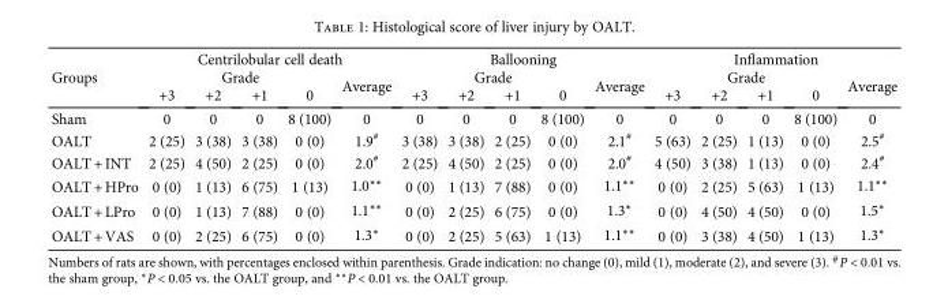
<table><thead><tr><td rowspan="3">Groups</td><td colspan="5">Centrilobular cell death</td><td colspan="5">Ballooning</td><td colspan="5">Inflammation</td></tr><tr><td colspan="4">Grade</td><td rowspan="2">Average</td><td colspan="4">Grade</td><td rowspan="2">Average</td><td colspan="4">Grade</td><td rowspan="2">Average</td></tr><tr><td>+3</td><td>+2</td><td>+1</td><td>0</td><td>+3</td><td>+2</td><td>+1</td><td>0</td><td>+3</td><td>+2</td><td>+1</td><td>0</td></tr></thead><tbody><tr><td>Sham</td><td>0</td><td>0</td><td>0</td><td>8 (100)</td><td>0</td><td>0</td><td>0</td><td>0</td><td>8 (100)</td><td>0</td><td>0</td><td>0</td><td>0</td><td>8 (100)</td><td>0</td></tr><tr><td>OALT</td><td>2 (25)</td><td>3 (38)</td><td>3 (38)</td><td>0 (0)</td><td>1.9<sup>#</sup></td><td>3 (38)</td><td>3 (38)</td><td>2 (25)</td><td>0 (0)</td><td>2.1<sup>#</sup></td><td>5 (63)</td><td>2 (25)</td><td>1 (13)</td><td>0 (0)</td><td>2.5<sup>#</sup></td></tr><tr><td>OALT + INT</td><td>2 (25)</td><td>4 (50)</td><td>2 (25)</td><td>0 (0)</td><td>2.0<sup>#</sup></td><td>2 (25)</td><td>4 (50)</td><td>2 (25)</td><td>0 (0)</td><td>2.0<sup>#</sup></td><td>4 (50)</td><td>3 (38)</td><td>1 (13)</td><td>0 (0)</td><td>2.4<sup>#</sup></td></tr><tr><td>OALT + HPro</td><td>0 (0)</td><td>1 (13)</td><td>6 (75)</td><td>1 (13)</td><td>1.0∗∗</td><td>0 (0)</td><td>1 (13)</td><td>7 (88)</td><td>0 (0)</td><td>1.1∗∗</td><td>0 (0)</td><td>2 (25)</td><td>5 (63)</td><td>1 (13)</td><td>1.1∗∗</td></tr><tr><td>OALT + LPro</td><td>0 (0)</td><td>1 (13)</td><td>7 (88)</td><td>0 (0)</td><td>1.1∗∗</td><td>0 (0)</td><td>2 (25)</td><td>6 (75)</td><td>0 (0)</td><td>1.3∗</td><td>0 (0)</td><td>4 (50)</td><td>4 (50)</td><td>0 (0)</td><td>1.5∗</td></tr><tr><td>OALT + VAS</td><td>0 (0)</td><td>2 (25)</td><td>6 (75)</td><td>0 (0)</td><td>1.3∗</td><td>0 (0)</td><td>2 (25)</td><td>5 (63)</td><td>1 (13)</td><td>1.1∗∗</td><td>0 (0)</td><td>3 (38)</td><td>4 (50)</td><td>1 (13)</td><td>1.3∗</td></tr></tbody></table>